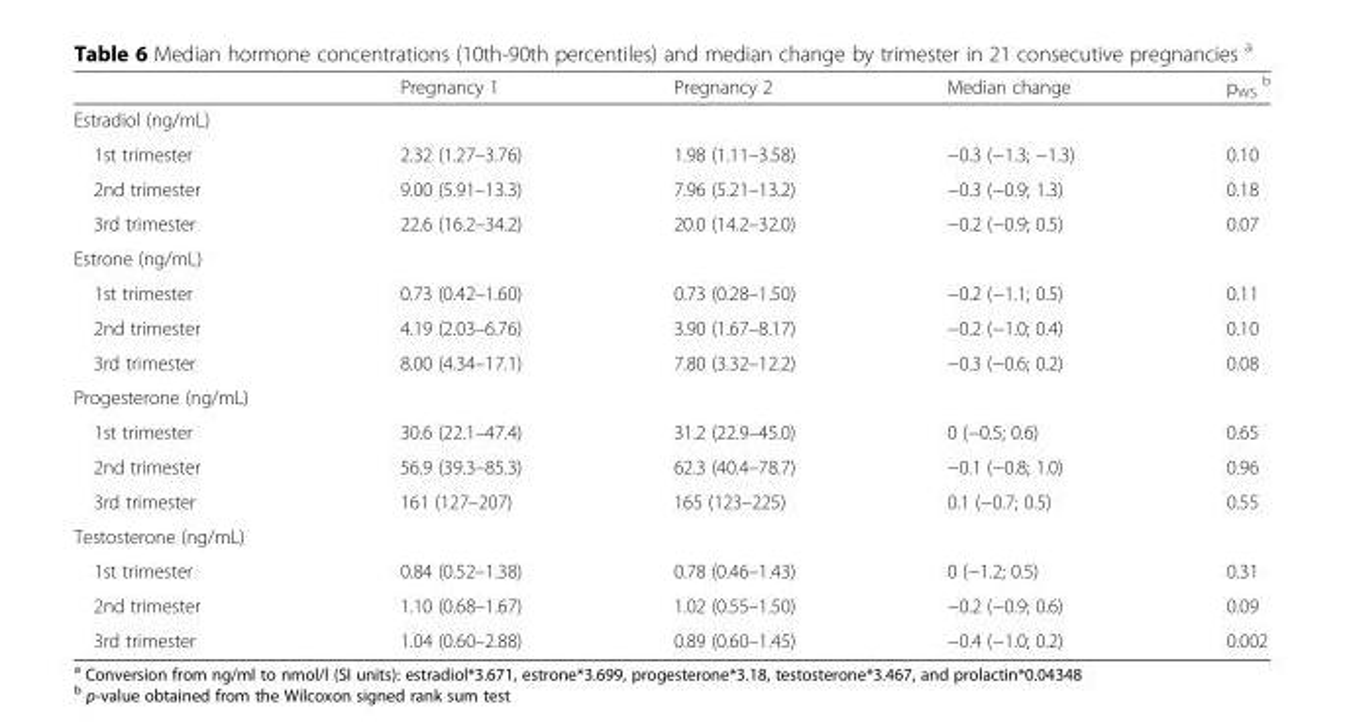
<table><thead><tr><td></td><td>Pregnancy 1</td><td>Pregnancy 2</td><td>Median change</td><td>p<sub>WS</sub> <sup>b</sup></td></tr></thead><tbody><tr><td colspan="5">Estradiol (ng/mL)</td></tr><tr><td>1st trimester</td><td>2.32 (1.27–3.76)</td><td>1.98 (1.11–3.58)</td><td>−0.3 (−1.3; −1.3)</td><td>0.10</td></tr><tr><td>2nd trimester</td><td>9.00 (5.91–13.3)</td><td>7.96 (5.21–13.2)</td><td>−0.3 (−0.9; 1.3)</td><td>0.18</td></tr><tr><td>3rd trimester</td><td>22.6 (16.2–34.2)</td><td>20.0 (14.2–32.0)</td><td>−0.2 (−0.9; 0.5)</td><td>0.07</td></tr><tr><td colspan="5">Estrone (ng/mL)</td></tr><tr><td>1st trimester</td><td>0.73 (0.42–1.60)</td><td>0.73 (0.28–1.50)</td><td>−0.2 (−1.1; 0.5)</td><td>0.11</td></tr><tr><td>2nd trimester</td><td>4.19 (2.03–6.76)</td><td>3.90 (1.67–8.17)</td><td>−0.2 (−1.0; 0.4)</td><td>0.10</td></tr><tr><td>3rd trimester</td><td>8.00 (4.34–17.1)</td><td>7.80 (3.32–12.2)</td><td>−0.3 (−0.6; 0.2)</td><td>0.08</td></tr><tr><td colspan="5">Progesterone (ng/mL)</td></tr><tr><td>1st trimester</td><td>30.6 (22.1–47.4)</td><td>31.2 (22.9–45.0)</td><td>0 (−0.5; 0.6)</td><td>0.65</td></tr><tr><td>2nd trimester</td><td>56.9 (39.3–85.3)</td><td>62.3 (40.4–78.7)</td><td>−0.1 (−0.8; 1.0)</td><td>0.96</td></tr><tr><td>3rd trimester</td><td>161 (127–207)</td><td>165 (123–225)</td><td>0.1 (−0.7; 0.5)</td><td>0.55</td></tr><tr><td colspan="5">Testosterone (ng/mL)</td></tr><tr><td>1st trimester</td><td>0.84 (0.52–1.38)</td><td>0.78 (0.46–1.43)</td><td>0 (−1.2; 0.5)</td><td>0.31</td></tr><tr><td>2nd trimester</td><td>1.10 (0.68–1.67)</td><td>1.02 (0.55–1.50)</td><td>−0.2 (−0.9; 0.6)</td><td>0.09</td></tr><tr><td>3rd trimester</td><td>1.04 (0.60–2.88)</td><td>0.89 (0.60–1.45)</td><td>−0.4 (−1.0; 0.2)</td><td>0.002</td></tr></tbody></table>